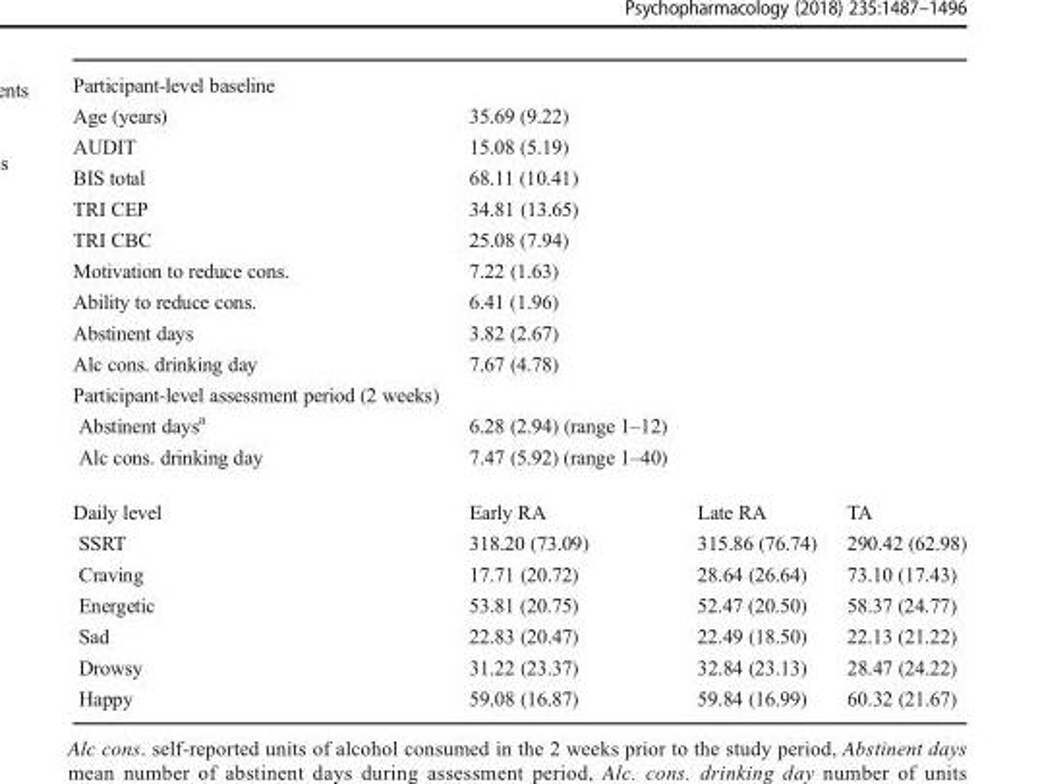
<table><tbody><tr><td colspan="4">Participant-level baseline</td></tr><tr><td>Age (years)</td><td>35.69 (9.22)</td><td></td><td></td></tr><tr><td>AUDIT</td><td>15.08 (5.19)</td><td></td><td></td></tr><tr><td>BIS total</td><td>68.11 (10.41)</td><td></td><td></td></tr><tr><td>TRI CEP</td><td>34.81 (13.65)</td><td></td><td></td></tr><tr><td>TRI CBC</td><td>25.08 (7.94)</td><td></td><td></td></tr><tr><td>Motivation to reduce cons.</td><td>7.22 (1.63)</td><td></td><td></td></tr><tr><td>Ability to reduce cons.</td><td>6.41 (1.96)</td><td></td><td></td></tr><tr><td>Abstinent days</td><td>3.82 (2.67)</td><td></td><td></td></tr><tr><td>Alc cons. drinking day</td><td>7.67 (4.78)</td><td></td><td></td></tr><tr><td colspan="4">Participant-level assessment period (2 weeks)</td></tr><tr><td>Abstinent days<sup>a</sup></td><td>6.28 (2.94) (range 1–12)</td><td></td><td></td></tr><tr><td>Alc cons. drinking day</td><td>7.47 (5.92) (range 1–40)</td><td></td><td></td></tr><tr><td>Daily level</td><td>Early RA</td><td>Late RA</td><td>TA</td></tr><tr><td>SSRT</td><td>318.20 (73.09)</td><td>315.86 (76.74)</td><td>290.42 (62.98)</td></tr><tr><td>Craving</td><td>17.71 (20.72)</td><td>28.64 (26.64)</td><td>73.10 (17.43)</td></tr><tr><td>Energetic</td><td>53.81 (20.75)</td><td>52.47 (20.50)</td><td>58.37 (24.77)</td></tr><tr><td>Sad</td><td>22.83 (20.47)</td><td>22.49 (18.50)</td><td>22.13 (21.22)</td></tr><tr><td>Drowsy</td><td>31.22 (23.37)</td><td>32.84 (23.13)</td><td>28.47 (24.22)</td></tr><tr><td>Happy</td><td>59.08 (16.87)</td><td>59.84 (16.99)</td><td>60.32 (21.67)</td></tr></tbody></table>